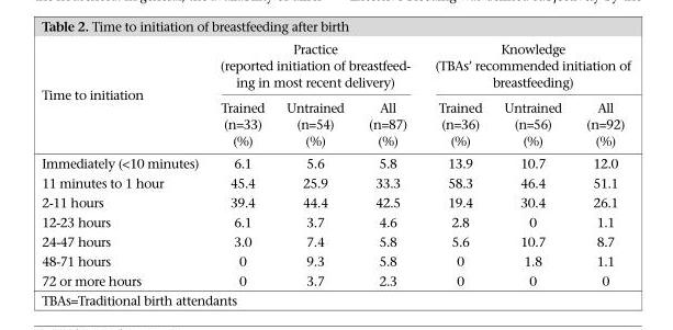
<table><thead><tr><td rowspan="2">Time to initiation</td><td colspan="3">Practice (reported initiation of breastfeed- ing in most recent delivery)</td><td colspan="3">Knowledge (TBAs’ recommended initiation of breastfeeding)</td></tr><tr><td>Trained (n=33) (%)</td><td>Untrained (n=54) (%)</td><td>All (n=87) (%)</td><td>Trained (n=36) (%)</td><td>Untrained (n=56) (%)</td><td>All (n=92) (%)</td></tr></thead><tbody><tr><td>Immediately (&lt;10 minutes)</td><td>6.1</td><td>5.6</td><td>5.8</td><td>13.9</td><td>10.7</td><td>12.0</td></tr><tr><td>11 minutes to 1 hour</td><td>45.4</td><td>25.9</td><td>33.3</td><td>58.3</td><td>46.4</td><td>51.1</td></tr><tr><td>2-11 hours</td><td>39.4</td><td>44.4</td><td>42.5</td><td>19.4</td><td>30.4</td><td>26.1</td></tr><tr><td>12-23 hours</td><td>6.1</td><td>3.7</td><td>4.6</td><td>2.8</td><td>0</td><td>1.1</td></tr><tr><td>24-47 hours</td><td>3.0</td><td>7.4</td><td>5.8</td><td>5.6</td><td>10.7</td><td>8.7</td></tr><tr><td>48-71 hours</td><td>0</td><td>9.3</td><td>5.8</td><td>0</td><td>1.8</td><td>1.1</td></tr><tr><td>72 or more hours</td><td>0</td><td>3.7</td><td>2.3</td><td>0</td><td>0</td><td>0</td></tr></tbody></table>